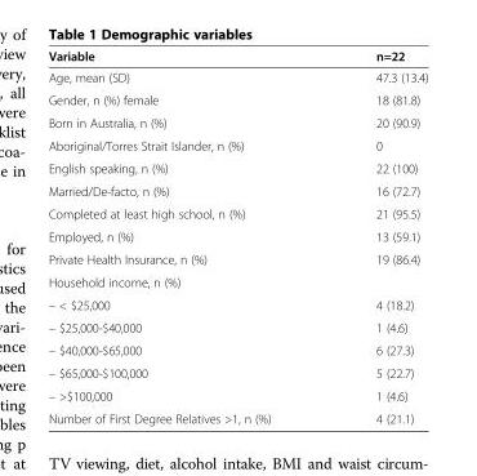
<table><thead><tr><td>Variable</td><td>n=22</td></tr></thead><tbody><tr><td>Age, mean (SD)</td><td>47.3 (13.4)</td></tr><tr><td>Gender, n (%) female</td><td>18 (81.8)</td></tr><tr><td>Born in Australia, n (%)</td><td>20 (90.9)</td></tr><tr><td>Aboriginal/Torres Strait Islander, n (%)</td><td>0</td></tr><tr><td>English speaking, n (%)</td><td>22 (100)</td></tr><tr><td>Married/De-facto, n (%)</td><td>16 (72.7)</td></tr><tr><td>Completed at least high school, n (%)</td><td>21 (95.5)</td></tr><tr><td>Employed, n (%)</td><td>13 (59.1)</td></tr><tr><td>Private Health Insurance, n (%)</td><td>19 (86.4)</td></tr><tr><td colspan="2">Household income, n (%)</td></tr><tr><td>– &lt; $25,000</td><td>4 (18.2)</td></tr><tr><td>– $25,000-$40,000</td><td>1 (4.6)</td></tr><tr><td>– $40,000-$65,000</td><td>6 (27.3)</td></tr><tr><td>– $65,000-$100,000</td><td>5 (22.7)</td></tr><tr><td>– &gt;$100,000</td><td>1 (4.6)</td></tr><tr><td>Number of First Degree Relatives &gt;1, n (%)</td><td>4 (21.1)</td></tr></tbody></table>